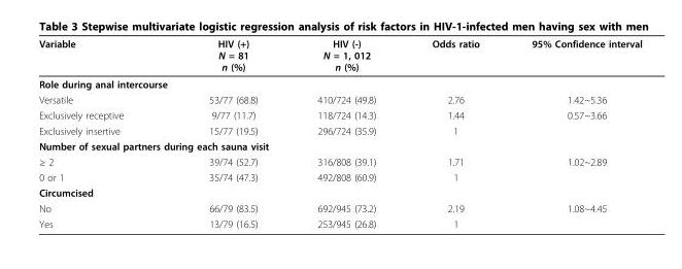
<table><thead><tr><td>Variable</td><td>HIV (+) N = 81 n (%)</td><td>HIV (-) N = 1, 012 n (%)</td><td>Odds ratio</td><td>95% Confidence interval</td></tr></thead><tbody><tr><td colspan="5">Role during anal intercourse</td></tr><tr><td>Versatile</td><td>53/77 (68.8)</td><td>410/724 (49.8)</td><td>2.76</td><td>1.42~5.36</td></tr><tr><td>Exclusively receptive</td><td>9/77 (11.7)</td><td>118/724 (14.3)</td><td>1.44</td><td>0.57~3.66</td></tr><tr><td>Exclusively insertive</td><td>15/77 (19.5)</td><td>296/724 (35.9)</td><td>1</td><td></td></tr><tr><td colspan="5">Number of sexual partners during each sauna visit</td></tr><tr><td>≥ 2</td><td>39/74 (52.7)</td><td>316/808 (39.1)</td><td>1.71</td><td>1.02~2.89</td></tr><tr><td>0 or 1</td><td>35/74 (47.3)</td><td>492/808 (60.9)</td><td>1</td><td></td></tr><tr><td colspan="5">Circumcised</td></tr><tr><td>No</td><td>66/79 (83.5)</td><td>692/945 (73.2)</td><td>2.19</td><td>1.08~4.45</td></tr><tr><td>Yes</td><td>13/79 (16.5)</td><td>253/945 (26.8)</td><td>1</td><td></td></tr></tbody></table>